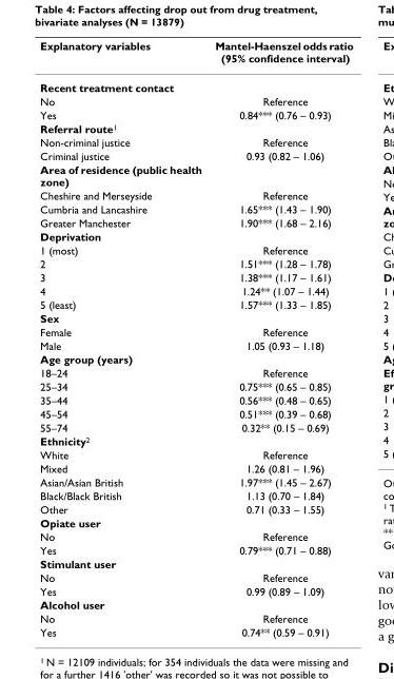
<table><thead><tr><td>Explanatory variables</td><td>Mantel-Haenszel odds ratio (95% confidence interval)</td></tr></thead><tbody><tr><td colspan="2">Recent treatment contact</td></tr><tr><td>No</td><td>Reference</td></tr><tr><td>Yes</td><td>0.84*** (0.76 – 0.93)</td></tr><tr><td colspan="2">Referral route<sup>1</sup></td></tr><tr><td>Non-criminal justice</td><td>Reference</td></tr><tr><td>Criminal justice</td><td>0.93 (0.82 – 1.06)</td></tr><tr><td colspan="2">Area of residence (public health zone)</td></tr><tr><td>Cheshire and Merseyside</td><td>Reference</td></tr><tr><td>Cumbria and Lancashire</td><td>1.65*** (1.43 – 1.90)</td></tr><tr><td>Greater Manchester</td><td>1.90*** (1.68 – 2.16)</td></tr><tr><td colspan="2">Deprivation</td></tr><tr><td>1 (most)</td><td>Reference</td></tr><tr><td>2</td><td>1.51*** (1.28 – 1.78)</td></tr><tr><td>3</td><td>1.38*** (1.17 – 1.61)</td></tr><tr><td>4</td><td>1.24** (1.07 – 1.44)</td></tr><tr><td>5 (least)</td><td>1.57*** (1.33 – 1.85)</td></tr><tr><td colspan="2">Sex</td></tr><tr><td>Female</td><td>Reference</td></tr><tr><td>Male</td><td>1.05 (0.93 – 1.18)</td></tr><tr><td colspan="2">Age group (years)</td></tr><tr><td>18–24</td><td>Reference</td></tr><tr><td>25–34</td><td>0.75*** (0.65 – 0.85)</td></tr><tr><td>35–44</td><td>0.56*** (0.48 – 0.65)</td></tr><tr><td>45–54</td><td>0.51*** (0.39 – 0.68)</td></tr><tr><td>55–74</td><td>0.32** (0.15 – 0.69)</td></tr><tr><td colspan="2">Ethnicity<sup>2</sup></td></tr><tr><td>White</td><td>Reference</td></tr><tr><td>Mixed</td><td>1.26 (0.81 – 1.96)</td></tr><tr><td>Asian/Asian British</td><td>1.97*** (1.45 – 2.67)</td></tr><tr><td>Black/Black British</td><td>1.13 (0.70 – 1.84)</td></tr><tr><td>Other</td><td>0.71 (0.33 – 1.55)</td></tr><tr><td colspan="2">Opiate user</td></tr><tr><td>No</td><td>Reference</td></tr><tr><td>Yes</td><td>0.79*** (0.71 – 0.88)</td></tr><tr><td colspan="2">Stimulant user</td></tr><tr><td>No</td><td>Reference</td></tr><tr><td>Yes</td><td>0.99 (0.89 – 1.09)</td></tr><tr><td colspan="2">Alcohol user</td></tr><tr><td>No</td><td>Reference</td></tr><tr><td>Yes</td><td>0.74** (0.59 – 0.91)</td></tr></tbody></table>